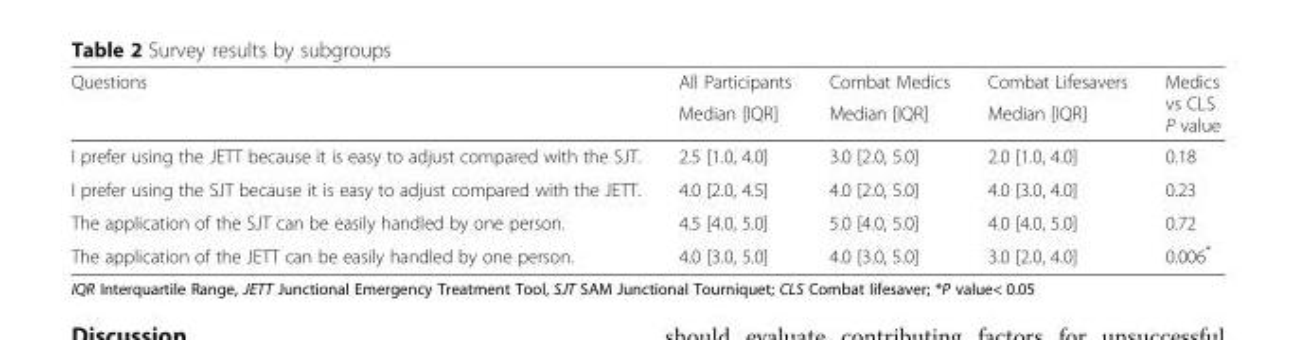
<table><thead><tr><td rowspan="2">Questions</td><td rowspan="2">All Participants Median [IQR]</td><td rowspan="2">Combat Medics Median [IQR]</td><td rowspan="2">Combat Lifesavers Median [IQR]</td><td rowspan="2">Medics vs CLS P value</td></tr><tr></tr></thead><tbody><tr><td>I prefer using the JETT because it is easy to adjust compared with the SJT.</td><td>2.5 [1.0, 4.0]</td><td>3.0 [2.0, 5.0]</td><td>2.0 [1.0, 4.0]</td><td>0.18</td></tr><tr><td>I prefer using the SJT because it is easy to adjust compared with the JETT.</td><td>4.0 [2.0, 4.5]</td><td>4.0 [2.0, 5.0]</td><td>4.0 [3.0, 4.0]</td><td>0.23</td></tr><tr><td>The application of the SJT can be easily handled by one person.</td><td>4.5 [4.0, 5.0]</td><td>5.0 [4.0, 5.0]</td><td>4.0 [4.0, 5.0]</td><td>0.72</td></tr><tr><td>The application of the JETT can be easily handled by one person.</td><td>4.0 [3.0, 5.0]</td><td>4.0 [3.0, 5.0]</td><td>3.0 [2.0, 4.0]</td><td>0.006*</td></tr></tbody></table>